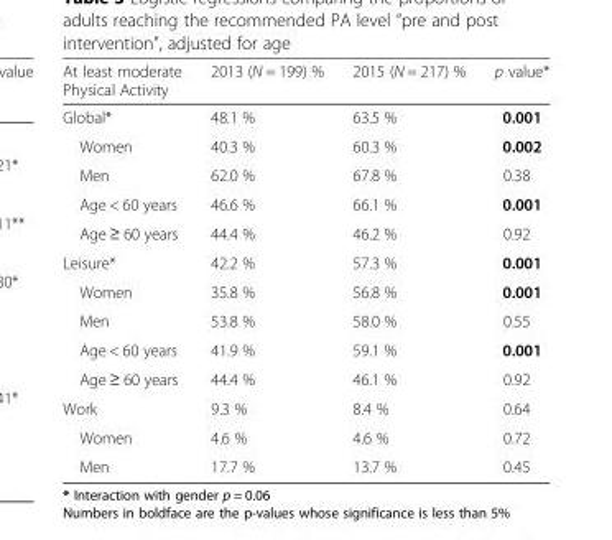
<table><thead><tr><td>At least moderate Physical Activity</td><td>2013 (N = 199) %</td><td>2015 (N = 217) %</td><td>p value*</td></tr></thead><tbody><tr><td>Global*</td><td>48.1 %</td><td>63.5 %</td><td>0.001</td></tr><tr><td>Women</td><td>40.3 %</td><td>60.3 %</td><td>0.002</td></tr><tr><td>Men</td><td>62.0 %</td><td>67.8 %</td><td>0.38</td></tr><tr><td>Age &lt; 60 years</td><td>46.6 %</td><td>66.1 %</td><td>0.001</td></tr><tr><td>Age ≥ 60 years</td><td>44.4 %</td><td>46.2 %</td><td>0.92</td></tr><tr><td>Leisure*</td><td>42.2 %</td><td>57.3 %</td><td>0.001</td></tr><tr><td>Women</td><td>35.8 %</td><td>56.8 %</td><td>0.001</td></tr><tr><td>Men</td><td>53.8 %</td><td>58.0 %</td><td>0.55</td></tr><tr><td>Age &lt; 60 years</td><td>41.9 %</td><td>59.1 %</td><td>0.001</td></tr><tr><td>Age ≥ 60 years</td><td>44.4 %</td><td>46.1 %</td><td>0.92</td></tr><tr><td>Work</td><td>9.3 %</td><td>8.4 %</td><td>0.64</td></tr><tr><td>Women</td><td>4.6 %</td><td>4.6 %</td><td>0.72</td></tr><tr><td>Men</td><td>17.7 %</td><td>13.7 %</td><td>0.45</td></tr></tbody></table>